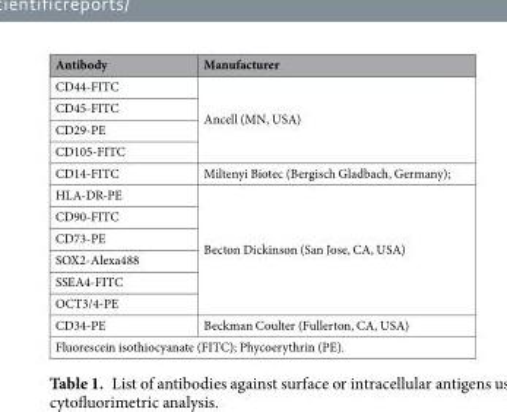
<table><thead><tr><td>Antibody</td><td>Manufacturer</td></tr></thead><tbody><tr><td>CD44-FITC</td><td rowspan="4">Ancell (MN, USA)</td></tr><tr><td>CD45-FITC</td></tr><tr><td>CD29-PE</td></tr><tr><td>CD105-FITC</td></tr><tr><td>CD14-FITC</td><td>Miltenyi Biotec (Bergisch Gladbach, Germany);</td></tr><tr><td>HLA-DR-PE</td><td rowspan="6">Becton Dickinson (San Jose, CA, USA)</td></tr><tr><td>CD90-FITC</td></tr><tr><td>CD73-PE</td></tr><tr><td>SOX2-Alexa488</td></tr><tr><td>SSEA4-FITC</td></tr><tr><td>OCT3/4-PE</td></tr><tr><td>CD34-PE</td><td>Beckman Coulter (Fullerton, CA, USA)</td></tr><tr><td colspan="2">Fluorescein isothiocyanate (FITC); Phycoerythrin (PE).</td></tr></tbody></table>